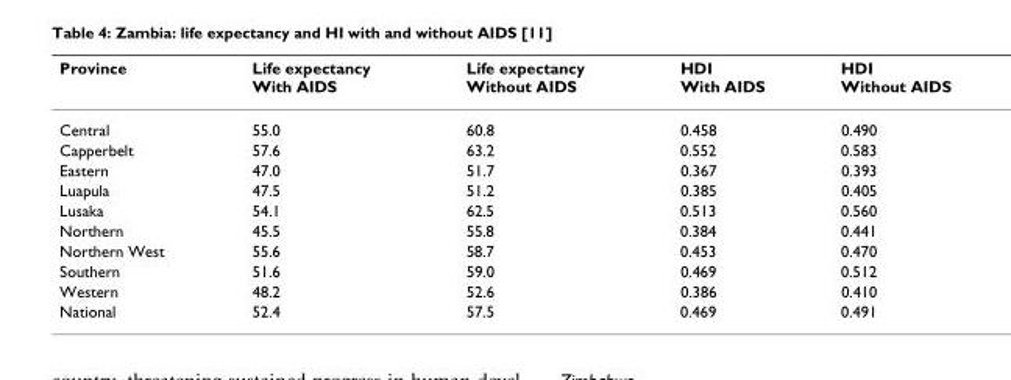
<table><thead><tr><td>Province</td><td>Life expectancy With AIDS</td><td>Life expectancy Without AIDS</td><td>HDI With AIDS</td><td>HDI Without AIDS</td></tr></thead><tbody><tr><td>Central</td><td>55.0</td><td>60.8</td><td>0.458</td><td>0.490</td></tr><tr><td>Capperbelt</td><td>57.6</td><td>63.2</td><td>0.552</td><td>0.583</td></tr><tr><td>Eastern</td><td>47.0</td><td>51.7</td><td>0.367</td><td>0.393</td></tr><tr><td>Luapula</td><td>47.5</td><td>51.2</td><td>0.385</td><td>0.405</td></tr><tr><td>Lusaka</td><td>54.1</td><td>62.5</td><td>0.513</td><td>0.560</td></tr><tr><td>Northern</td><td>45.5</td><td>55.8</td><td>0.384</td><td>0.441</td></tr><tr><td>Northern West</td><td>55.6</td><td>58.7</td><td>0.453</td><td>0.470</td></tr><tr><td>Southern</td><td>51.6</td><td>59.0</td><td>0.469</td><td>0.512</td></tr><tr><td>Western</td><td>48.2</td><td>52.6</td><td>0.386</td><td>0.410</td></tr><tr><td>National</td><td>52.4</td><td>57.5</td><td>0.469</td><td>0.491</td></tr></tbody></table>